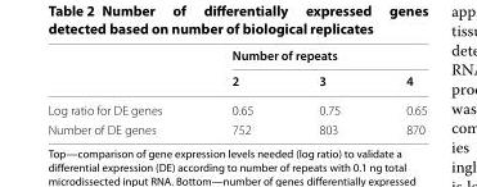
<table><thead><tr><td rowspan="2"></td><td colspan="3">Number of repeats</td></tr><tr><td>2</td><td>3</td><td>4</td></tr></thead><tbody><tr><td>Log ratio for DE genes</td><td>0.65</td><td>0.75</td><td>0.65</td></tr><tr><td>Number of DE genes</td><td>752</td><td>803</td><td>870</td></tr></tbody></table>